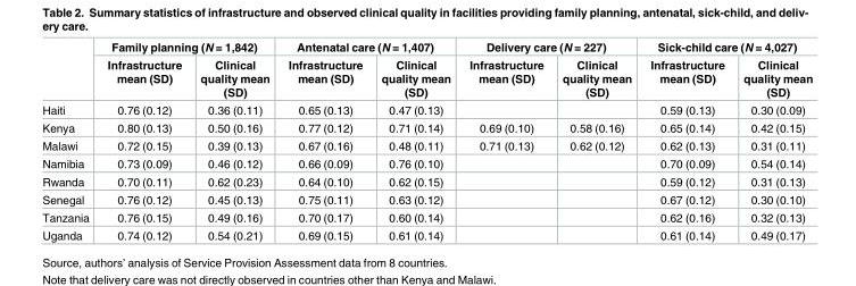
<table><thead><tr><td rowspan="2"></td><td colspan="2">Family planning (N = 1,842)</td><td colspan="2">Antenatal care (N = 1,407)</td><td colspan="2">Delivery care (N = 227)</td><td colspan="2">Sick-child care (N = 4,027)</td></tr><tr><td>Infrastructure mean (SD)</td><td>Clinical quality mean (SD)</td><td>Infrastructure mean (SD)</td><td>Clinical quality mean (SD)</td><td>Infrastructure mean (SD)</td><td>Clinical quality mean (SD)</td><td>Infrastructure mean (SD)</td><td>Clinical quality mean (SD)</td></tr></thead><tbody><tr><td>Haiti</td><td>0.76 (0.12)</td><td>0.36 (0.11)</td><td>0.65 (0.13)</td><td>0.47 (0.13)</td><td></td><td></td><td>0.59 (0.13)</td><td>0.30 (0.09)</td></tr><tr><td>Kenya</td><td>0.80 (0.13)</td><td>0.50 (0.16)</td><td>0.77 (0.12)</td><td>0.71 (0.14)</td><td>0.69 (0.10)</td><td>0.58 (0.16)</td><td>0.65 (0.14)</td><td>0.42 (0.15)</td></tr><tr><td>Malawi</td><td>0.72 (0.15)</td><td>0.39 (0.13)</td><td>0.67 (0.16)</td><td>0.48 (0.11)</td><td>0.71 (0.13)</td><td>0.62 (0.12)</td><td>0.62 (0.13)</td><td>0.31 (0.11)</td></tr><tr><td>Namibia</td><td>0.73 (0.09)</td><td>0.46 (0.12)</td><td>0.66 (0.09)</td><td>0.76 (0.10)</td><td></td><td></td><td>0.70 (0.09)</td><td>0.54 (0.14)</td></tr><tr><td>Rwanda</td><td>0.70 (0.11)</td><td>0.62 (0.23)</td><td>0.64 (0.10)</td><td>0.62 (0.15)</td><td></td><td></td><td>0.59 (0.12)</td><td>0.31 (0.13)</td></tr><tr><td>Senegal</td><td>0.76 (0.12)</td><td>0.45 (0.13)</td><td>0.75 (0.11)</td><td>0.63 (0.12)</td><td></td><td></td><td>0.67 (0.12)</td><td>0.30 (0.10)</td></tr><tr><td>Tanzania</td><td>0.76 (0.15)</td><td>0.49 (0.16)</td><td>0.70 (0.17)</td><td>0.60 (0.14)</td><td></td><td></td><td>0.62 (0.16)</td><td>0.32 (0.13)</td></tr><tr><td>Uganda</td><td>0.74 (0.12)</td><td>0.54 (0.21)</td><td>0.69 (0.15)</td><td>0.61 (0.14)</td><td></td><td></td><td>0.61 (0.14)</td><td>0.49 (0.17)</td></tr></tbody></table>